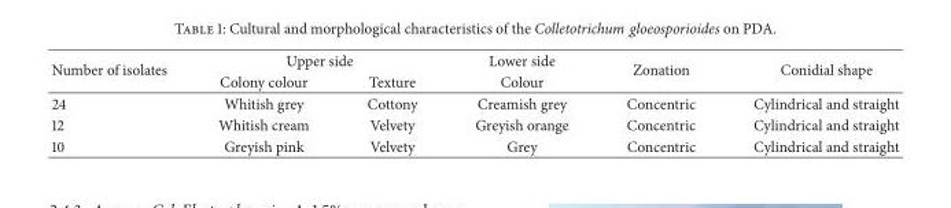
<table><thead><tr><td rowspan="2">Number of isolates</td><td colspan="2">Upper side</td><td rowspan="2">Lower side Colour</td><td rowspan="2">Zonation</td><td rowspan="2">Conidial shape</td></tr><tr><td>Colony colour</td><td>Texture</td></tr></thead><tbody><tr><td>24</td><td>Whitish grey</td><td>Cottony</td><td>Creamish grey</td><td>Concentric</td><td>Cylindrical and straight</td></tr><tr><td>12</td><td>Whitish cream</td><td>Velvety</td><td>Greyish orange</td><td>Concentric</td><td>Cylindrical and straight</td></tr><tr><td>10</td><td>Greyish pink</td><td>Velvety</td><td>Grey</td><td>Concentric</td><td>Cylindrical and straight</td></tr></tbody></table>